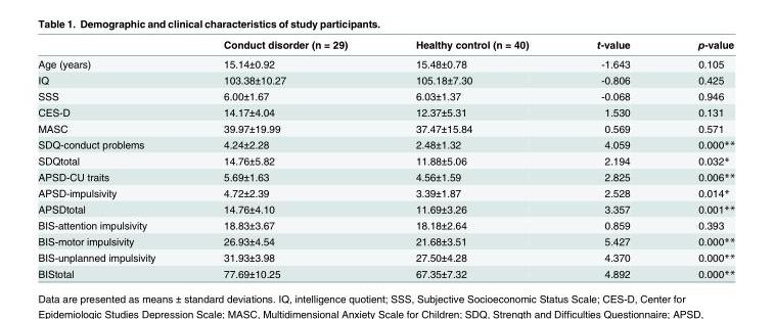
<table><thead><tr><td></td><td>Conduct disorder (n = 29)</td><td>Healthy control (n = 40)</td><td>t-value</td><td>p-value</td></tr></thead><tbody><tr><td>Age (years)</td><td>15.14±0.92</td><td>15.48±0.78</td><td>-1.643</td><td>0.105</td></tr><tr><td>IQ</td><td>103.38±10.27</td><td>105.18±7.30</td><td>-0.806</td><td>0.425</td></tr><tr><td>SSS</td><td>6.00±1.67</td><td>6.03±1.37</td><td>-0.068</td><td>0.946</td></tr><tr><td>CES-D</td><td>14.17±4.04</td><td>12.37±5.31</td><td>1.530</td><td>0.131</td></tr><tr><td>MASC</td><td>39.97±19.99</td><td>37.47±15.84</td><td>0.569</td><td>0.571</td></tr><tr><td>SDQ-conduct problems</td><td>4.24±2.28</td><td>2.48±1.32</td><td>4.059</td><td>0.000**</td></tr><tr><td>SDQtotal</td><td>14.76±5.82</td><td>11.88±5.06</td><td>2.194</td><td>0.032*</td></tr><tr><td>APSD-CU traits</td><td>5.69±1.63</td><td>4.56±1.59</td><td>2.825</td><td>0.006**</td></tr><tr><td>APSD-impulsivity</td><td>4.72±2.39</td><td>3.39±1.87</td><td>2.528</td><td>0.014*</td></tr><tr><td>APSDtotal</td><td>14.76±4.10</td><td>11.69±3.26</td><td>3.357</td><td>0.001**</td></tr><tr><td>BIS-attention impulsivity</td><td>18.83±3.67</td><td>18.18±2.64</td><td>0.859</td><td>0.393</td></tr><tr><td>BIS-motor impulsivity</td><td>26.93±4.54</td><td>21.68±3.51</td><td>5.427</td><td>0.000**</td></tr><tr><td>BIS-unplanned impulsivity</td><td>31.93±3.98</td><td>27.50±4.28</td><td>4.370</td><td>0.000**</td></tr><tr><td>BIStotal</td><td>77.69±10.25</td><td>67.35±7.32</td><td>4.892</td><td>0.000**</td></tr></tbody></table>